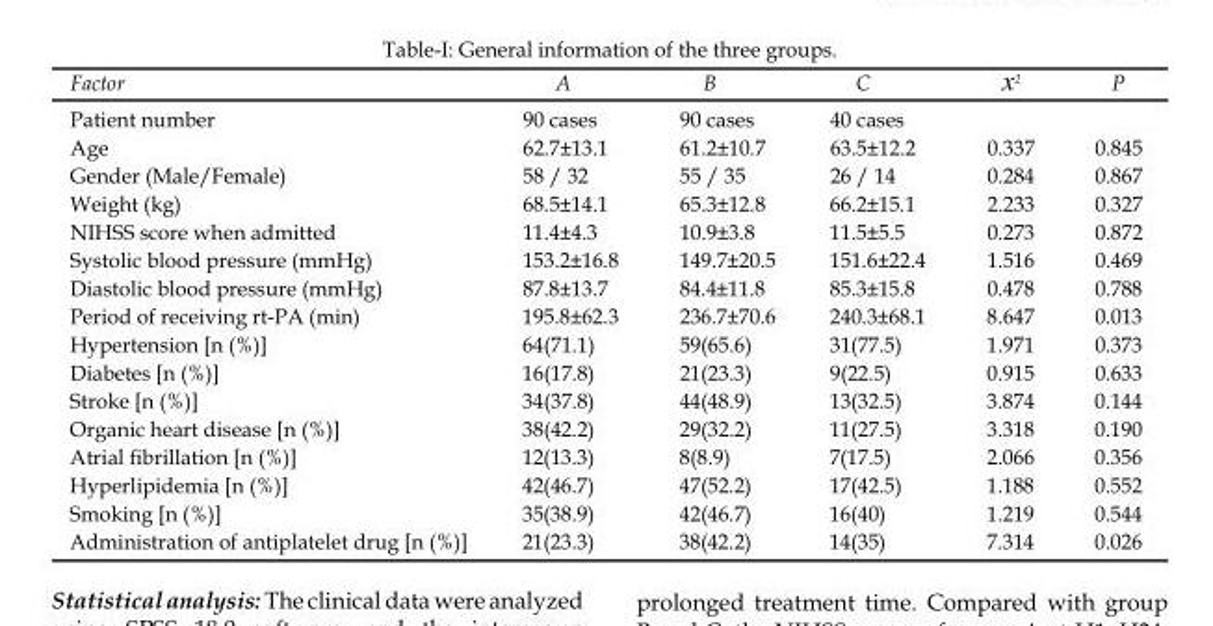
<table><thead><tr><td>Factor</td><td>A</td><td>B</td><td>C</td><td>2</td><td>P</td></tr></thead><tbody><tr><td>Patient number</td><td>90 cases</td><td>90 cases</td><td>40 cases</td><td></td><td></td></tr><tr><td>Age</td><td>62.7±13.1</td><td>61.2±10.7</td><td>63.5±12.2</td><td>0.337</td><td>0.845</td></tr><tr><td>Gender (Male/Female)</td><td>58 / 32</td><td>55 / 35</td><td>26 / 14</td><td>0.284</td><td>0.867</td></tr><tr><td>Weight (kg)</td><td>68.5±14.1</td><td>65.3±12.8</td><td>66.2±15.1</td><td>2.233</td><td>0.327</td></tr><tr><td>NIHSS score when admitted</td><td>11.4±4.3</td><td>10.9±3.8</td><td>11.5±5.5</td><td>0.273</td><td>0.872</td></tr><tr><td>Systolic blood pressure (mmHg)</td><td>153.2±16.8</td><td>149.7±20.5</td><td>151.6±22.4</td><td>1.516</td><td>0.469</td></tr><tr><td>Diastolic blood pressure (mmHg)</td><td>87.8±13.7</td><td>84.4±11.8</td><td>85.3±15.8</td><td>0.478</td><td>0.788</td></tr><tr><td>Period of receiving rt-PA (min)</td><td>195.8±62.3</td><td>236.7±70.6</td><td>240.3±68.1</td><td>8.647</td><td>0.013</td></tr><tr><td>Hypertension [n (%)]</td><td>64(71.1)</td><td>59(65.6)</td><td>31(77.5)</td><td>1.971</td><td>0.373</td></tr><tr><td>Diabetes [n (%)]</td><td>16(17.8)</td><td>21(23.3)</td><td>9(22.5)</td><td>0.915</td><td>0.633</td></tr><tr><td>Stroke [n (%)]</td><td>34(37.8)</td><td>44(48.9)</td><td>13(32.5)</td><td>3.874</td><td>0.144</td></tr><tr><td>Organic heart disease [n (%)]</td><td>38(42.2)</td><td>29(32.2)</td><td>11(27.5)</td><td>3.318</td><td>0.190</td></tr><tr><td>Atrial fibrillation [n (%)]</td><td>12(13.3)</td><td>8(8.9)</td><td>7(17.5)</td><td>2.066</td><td>0.356</td></tr><tr><td>Hyperlipidemia [n (%)]</td><td>42(46.7)</td><td>47(52.2)</td><td>17(42.5)</td><td>1.188</td><td>0.552</td></tr><tr><td>Smoking [n (%)]</td><td>35(38.9)</td><td>42(46.7)</td><td>16(40)</td><td>1.219</td><td>0.544</td></tr><tr><td>Administration of antiplatelet drug [n (%)]</td><td>21(23.3)</td><td>38(42.2)</td><td>14(35)</td><td>7.314</td><td>0.026</td></tr></tbody></table>